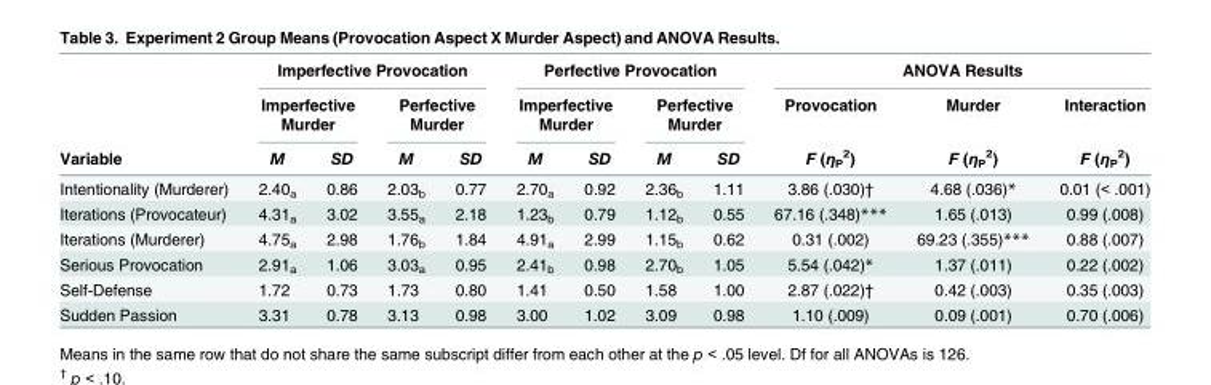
<table><thead><tr><td rowspan="3">Variable</td><td colspan="4">Imperfective Provocation</td><td colspan="4">Perfective Provocation</td><td colspan="3">ANOVA Results</td></tr><tr><td colspan="2">Imperfective Murder</td><td colspan="2">Perfective Murder</td><td colspan="2">Imperfective Murder</td><td colspan="2">Perfective Murder</td><td rowspan="2">Provocation F (η<sub>P</sub> <sup>2</sup>)</td><td rowspan="2">Murder F (η<sub>P</sub> <sup>2</sup>)</td><td rowspan="2">Interaction F (η<sub>P</sub> <sup>2</sup>)</td></tr><tr><td>M</td><td>SD</td><td>M</td><td>SD</td><td>M</td><td>SD</td><td>M</td><td>SD</td></tr></thead><tbody><tr><td>Intentionality (Murderer)</td><td>2.40<sub>a</sub></td><td>0.86</td><td>2.03<sub>b</sub></td><td>0.77</td><td>2.70<sub>a</sub></td><td>0.92</td><td>2.36<sub>b</sub></td><td>1.11</td><td>3.86 (.030)†</td><td>4.68 (.036)*</td><td>0.01 (&lt; .001)</td></tr><tr><td>Iterations (Provocateur)</td><td>4.31<sub>a</sub></td><td>3.02</td><td>3.55<sub>a</sub></td><td>2.18</td><td>1.23<sub>b</sub></td><td>0.79</td><td>1.12<sub>b</sub></td><td>0.55</td><td>67.16 (.348)***</td><td>1.65 (.013)</td><td>0.99 (.008)</td></tr><tr><td>Iterations (Murderer)</td><td>4.75<sub>a</sub></td><td>2.98</td><td>1.76<sub>b</sub></td><td>1.84</td><td>4.91<sub>a</sub></td><td>2.99</td><td>1.15<sub>b</sub></td><td>0.62</td><td>0.31 (.002)</td><td>69.23 (.355)***</td><td>0.88 (.007)</td></tr><tr><td>Serious Provocation</td><td>2.91<sub>a</sub></td><td>1.06</td><td>3.03<sub>a</sub></td><td>0.95</td><td>2.41<sub>b</sub></td><td>0.98</td><td>2.70<sub>b</sub></td><td>1.05</td><td>5.54 (.042)*</td><td>1.37 (.011)</td><td>0.22 (.002)</td></tr><tr><td>Self-Defense</td><td>1.72</td><td>0.73</td><td>1.73</td><td>0.80</td><td>1.41</td><td>0.50</td><td>1.58</td><td>1.00</td><td>2.87 (.022)†</td><td>0.42 (.003)</td><td>0.35 (.003)</td></tr><tr><td>Sudden Passion</td><td>3.31</td><td>0.78</td><td>3.13</td><td>0.98</td><td>3.00</td><td>1.02</td><td>3.09</td><td>0.98</td><td>1.10 (.009)</td><td>0.09 (.001)</td><td>0.70 (.006)</td></tr></tbody></table>